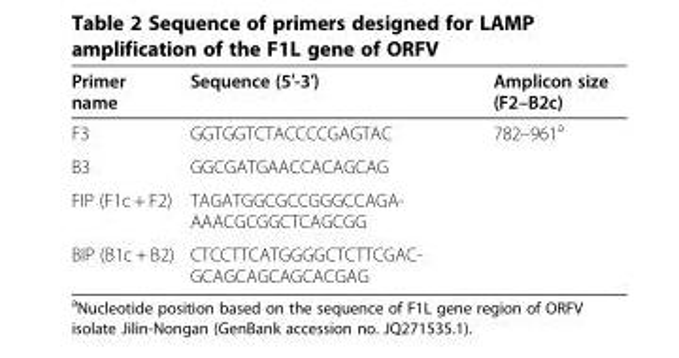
<table><thead><tr><td>Primer name</td><td>Sequence (5′-3′)</td><td>Amplicon size (F2–B2c)</td></tr></thead><tbody><tr><td>F3</td><td>GGTGGTCTACCCCGAGTAC</td><td>782–961<sup>a</sup></td></tr><tr><td>B3</td><td>GGCGATGAACCACAGCAG</td><td></td></tr><tr><td>FIP (F1c + F2)</td><td>TAGATGGCGCCGGGCCAGA- AAACGCGGCTCAGCGG</td><td></td></tr><tr><td>BIP (B1c + B2)</td><td>CTCCTTCATGGGGCTCTTCGAC- GCAGCAGCAGCACGAG</td><td></td></tr></tbody></table>